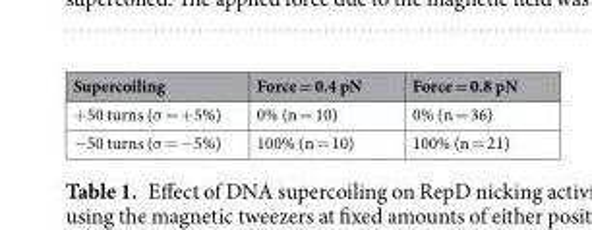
<table><thead><tr><td>Supercoiling</td><td>Force = 0.4 pN</td><td>Force = 0.8 pN</td></tr></thead><tbody><tr><td>+50 turns (σ = +5%)</td><td>0% (n = 10)</td><td>0% (n = 36)</td></tr><tr><td>−50 turns (σ = −5%)</td><td>100% (n = 10)</td><td>100% (n = 21)</td></tr></tbody></table>